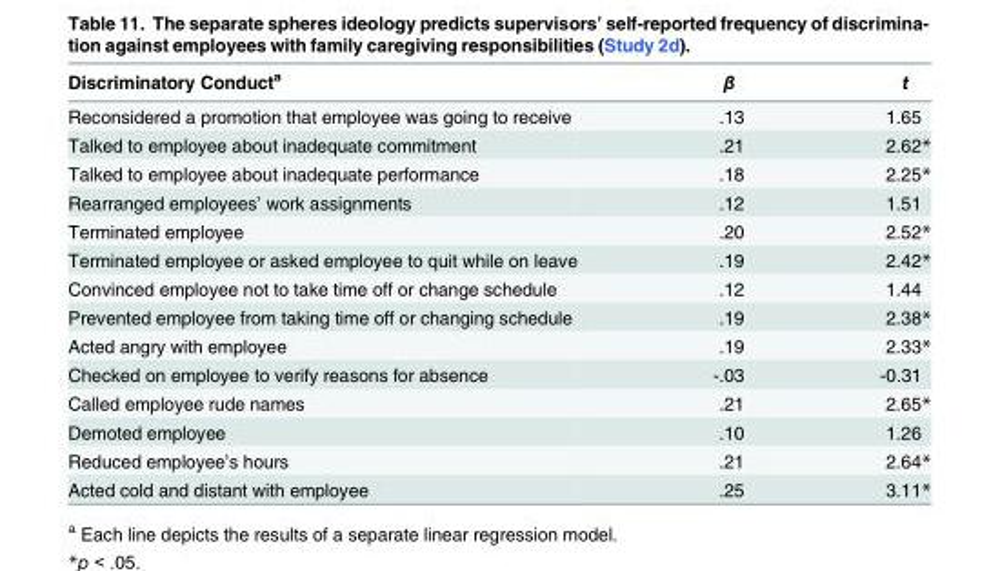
<table><thead><tr><td>Discriminatory Conduct<sup>a</sup></td><td>β</td><td>t</td></tr></thead><tbody><tr><td>Reconsidered a promotion that employee was going to receive</td><td>.13</td><td>1.65</td></tr><tr><td>Talked to employee about inadequate commitment</td><td>.21</td><td>2.62*</td></tr><tr><td>Talked to employee about inadequate performance</td><td>.18</td><td>2.25*</td></tr><tr><td>Rearranged employees’ work assignments</td><td>.12</td><td>1.51</td></tr><tr><td>Terminated employee</td><td>.20</td><td>2.52*</td></tr><tr><td>Terminated employee or asked employee to quit while on leave</td><td>.19</td><td>2.42*</td></tr><tr><td>Convinced employee not to take time off or change schedule</td><td>.12</td><td>1.44</td></tr><tr><td>Prevented employee from taking time off or changing schedule</td><td>.19</td><td>2.38*</td></tr><tr><td>Acted angry with employee</td><td>.19</td><td>2.33*</td></tr><tr><td>Checked on employee to verify reasons for absence</td><td>-.03</td><td>-0.31</td></tr><tr><td>Called employee rude names</td><td>.21</td><td>2.65*</td></tr><tr><td>Demoted employee</td><td>.10</td><td>1.26</td></tr><tr><td>Reduced employee’s hours</td><td>.21</td><td>2.64*</td></tr><tr><td>Acted cold and distant with employee</td><td>.25</td><td>3.11*</td></tr></tbody></table>